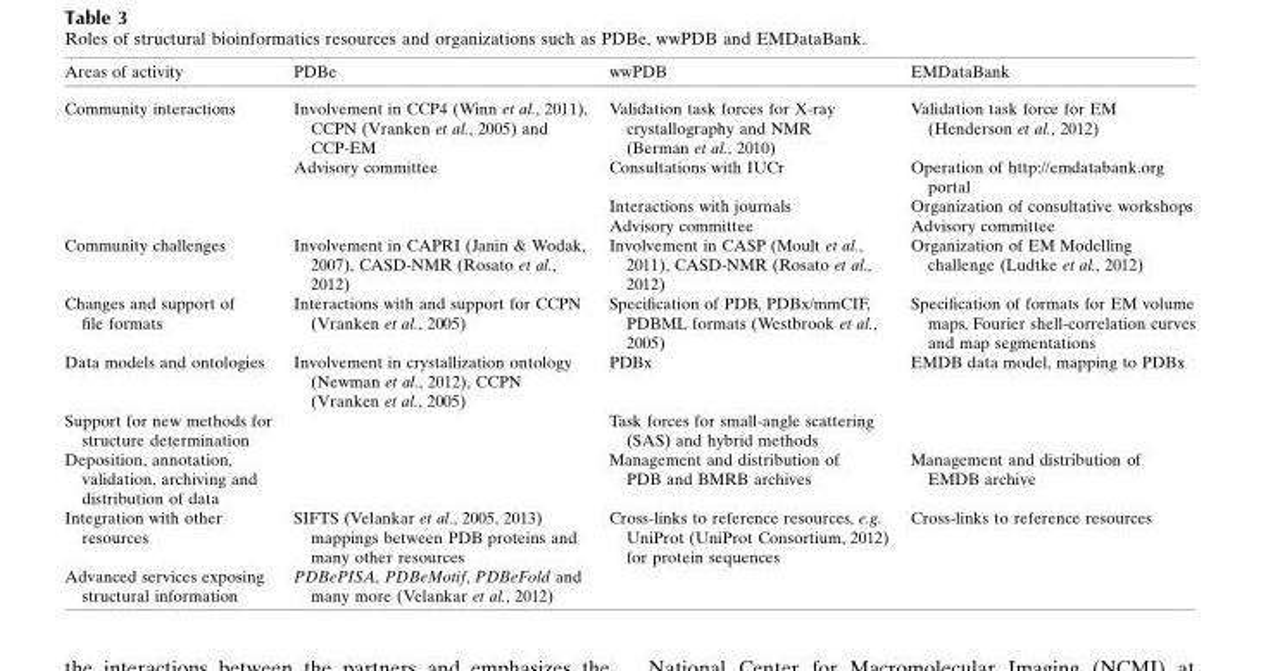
<table><thead><tr><td>Areas of activity</td><td>PDBe</td><td>wwPDB</td><td>EMDataBank</td></tr></thead><tbody><tr><td rowspan="4">Community interactions</td><td>Involvement in CCP4 (Winn et al., 2011), CCPN (Vranken et al., 2005) and CCP-EM</td><td>Validation task forces for X-ray crystallography and NMR (Berman et al., 2010)</td><td>Validation task force for EM (Henderson et al., 2012)</td></tr><tr><td>Advisory committee</td><td>Consultations with IUCr</td><td>Operation of http://emdatabank.org portal</td></tr><tr><td></td><td>Interactions with journals</td><td>Organization of consultative workshops</td></tr><tr><td></td><td>Advisory committee</td><td>Advisory committee</td></tr><tr><td>Community challenges</td><td>Involvement in CAPRI (Janin &amp; Wodak, 2007), CASD-NMR (Rosato et al., 2012)</td><td>Involvement in CASP (Moult et al., 2011), CASD-NMR (Rosato et al., 2012)</td><td>Organization of EM Modelling challenge (Ludtke et al., 2012)</td></tr><tr><td>Changes and support of file formats</td><td>Interactions with and support for CCPN (Vranken et al., 2005)</td><td>Specification of PDB, PDBx/mmCIF, PDBML formats (Westbrook et al., 2005)</td><td>Specification of formats for EM volume maps, Fourier shell-correlation curves and map segmentations</td></tr><tr><td>Data models and ontologies</td><td>Involvement in crystallization ontology (Newman et al., 2012), CCPN (Vranken et al., 2005)</td><td>PDBx</td><td>EMDB data model, mapping to PDBx</td></tr><tr><td>Support for new methods for structure determination</td><td></td><td>Task forces for small-angle scattering (SAS) and hybrid methods</td><td></td></tr><tr><td>Deposition, annotation, validation, archiving and distribution of data</td><td></td><td>Management and distribution of PDB and BMRB archives</td><td>Management and distribution of EMDB archive</td></tr><tr><td>Integration with other resources</td><td>SIFTS (Velankar et al., 2005, 2013) mappings between PDB proteins and many other resources</td><td>Cross-links to reference resources, e.g. UniProt (UniProt Consortium, 2012) for protein sequences</td><td>Cross-links to reference resources</td></tr><tr><td>Advanced services exposing structural information</td><td>PDBePISA, PDBeMotif, PDBeFold and many more (Velankar et al., 2012)</td><td></td><td></td></tr></tbody></table>